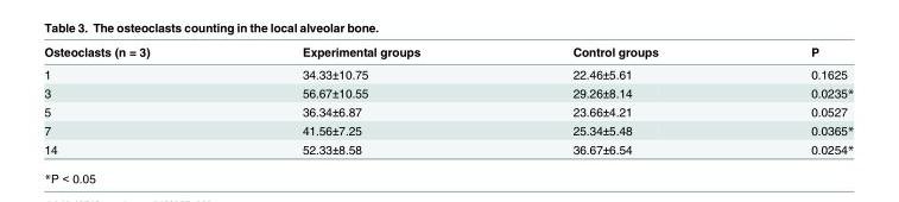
<table><thead><tr><td>Osteoclasts (n = 3)</td><td>Experimental groups</td><td>Control groups</td><td>P</td></tr></thead><tbody><tr><td>1</td><td>34.33±10.75</td><td>22.46±5.61</td><td>0.1625</td></tr><tr><td>3</td><td>56.67±10.55</td><td>29.26±8.14</td><td>0.0235*</td></tr><tr><td>5</td><td>36.34±6.87</td><td>23.66±4.21</td><td>0.0527</td></tr><tr><td>7</td><td>41.56±7.25</td><td>25.34±5.48</td><td>0.0365*</td></tr><tr><td>14</td><td>52.33±8.58</td><td>36.67±6.54</td><td>0.0254*</td></tr></tbody></table>